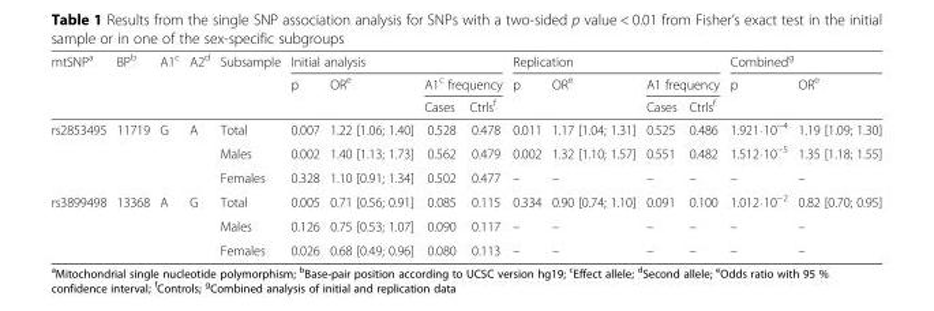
<table><thead><tr><td rowspan="3">mtSNP<sup>a</sup></td><td rowspan="3">BP<sup>b</sup></td><td rowspan="3">A1<sup>c</sup></td><td rowspan="3">A2<sup>d</sup></td><td rowspan="3">Subsample</td><td colspan="4">Initial analysis</td><td colspan="4">Replication</td><td colspan="2">Combined<sup>g</sup></td></tr><tr><td rowspan="2">p</td><td rowspan="2">OR<sup>e</sup></td><td colspan="2">A1<sup>c</sup> frequency</td><td rowspan="2">p</td><td rowspan="2">OR<sup>e</sup></td><td colspan="2">A1 frequency</td><td rowspan="2">p</td><td rowspan="2">OR<sup>e</sup></td></tr><tr><td>Cases</td><td>Ctrls<sup>f</sup></td><td>Cases</td><td>Ctrls<sup>f</sup></td></tr></thead><tbody><tr><td rowspan="3">rs2853495</td><td rowspan="3">11719</td><td rowspan="3">G</td><td rowspan="3">A</td><td>Total</td><td>0.007</td><td>1.22 [1.06; 1.40]</td><td>0.528</td><td>0.478</td><td>0.011</td><td>1.17 [1.04; 1.31]</td><td>0.525</td><td>0.486</td><td>1.921⋅10<sup>−4</sup></td><td>1.19 [1.09; 1.30]</td></tr><tr><td>Males</td><td>0.002</td><td>1.40 [1.13; 1.73]</td><td>0.562</td><td>0.479</td><td>0.002</td><td>1.32 [1.10; 1.57]</td><td>0.551</td><td>0.482</td><td>1.512⋅10<sup>−5</sup></td><td>1.35 [1.18; 1.55]</td></tr><tr><td>Females</td><td>0.328</td><td>1.10 [0.91; 1.34]</td><td>0.502</td><td>0.477</td><td>–</td><td>–</td><td>–</td><td>–</td><td>–</td><td>–</td></tr><tr><td rowspan="3">rs3899498</td><td rowspan="3">13368</td><td rowspan="3">A</td><td rowspan="3">G</td><td>Total</td><td>0.005</td><td>0.71 [0.56; 0.91]</td><td>0.085</td><td>0.115</td><td>0.334</td><td>0.90 [0.74; 1.10]</td><td>0.091</td><td>0.100</td><td>1.012⋅10<sup>−2</sup></td><td>0.82 [0.70; 0.95]</td></tr><tr><td>Males</td><td>0.126</td><td>0.75 [0.53; 1.07]</td><td>0.090</td><td>0.117</td><td>–</td><td>–</td><td>–</td><td>–</td><td>–</td><td>–</td></tr><tr><td>Females</td><td>0.026</td><td>0.68 [0.49; 0.96]</td><td>0.080</td><td>0.113</td><td>–</td><td>–</td><td>–</td><td>–</td><td>–</td><td>–</td></tr></tbody></table>